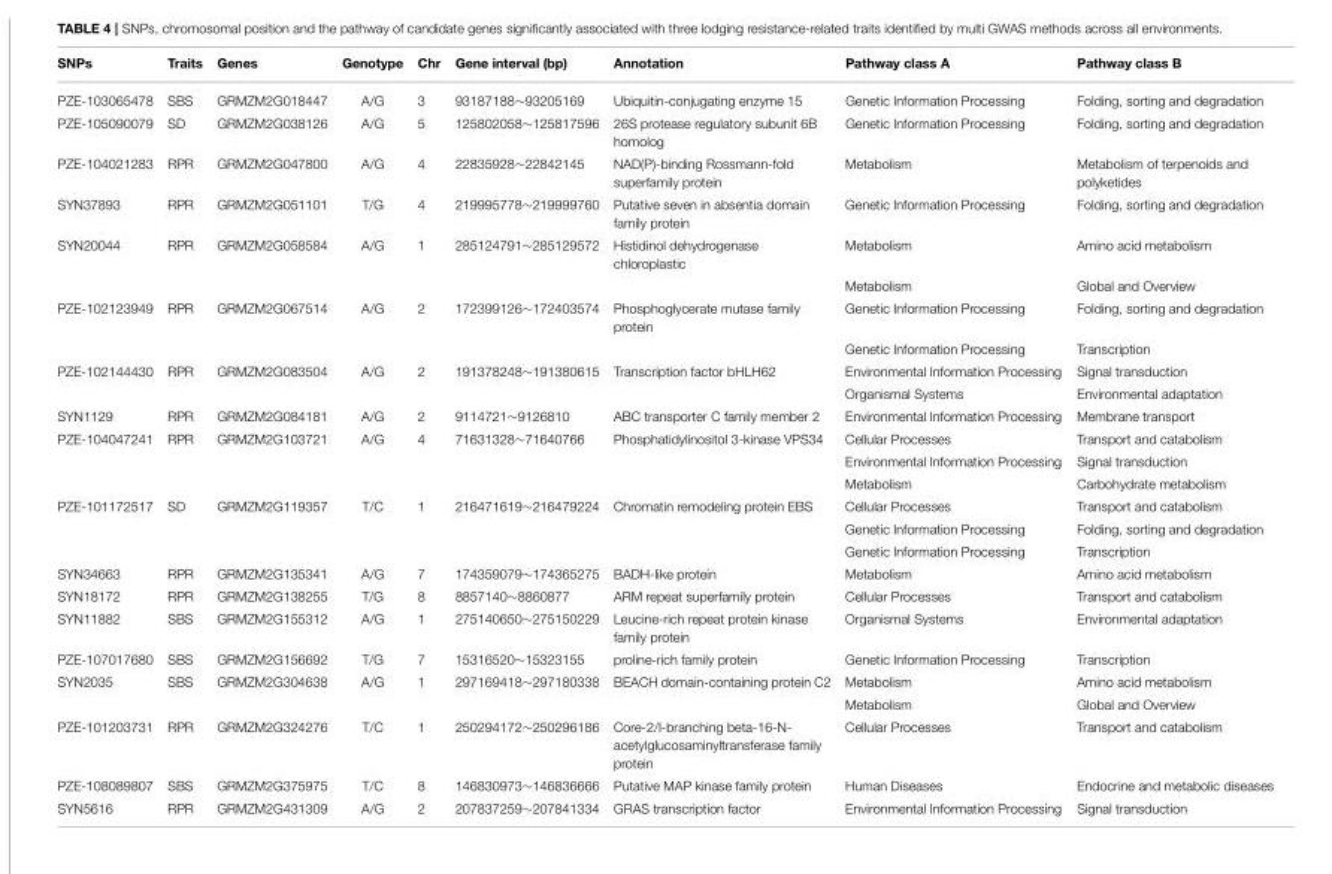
<table><thead><tr><td>SNPs</td><td>Traits</td><td>Genes</td><td>Genotype</td><td>Chr</td><td>Gene interval (bp)</td><td>Annotation</td><td>Pathway class A</td><td>Pathway class B</td></tr></thead><tbody><tr><td>PZE-103065478</td><td>SBS</td><td>GRMZM2G018447</td><td>A/G</td><td>3</td><td>93187188∼93205169</td><td>Ubiquitin-conjugating enzyme 15</td><td>Genetic Information Processing</td><td>Folding, sorting and degradation</td></tr><tr><td>PZE-105090079</td><td>SD</td><td>GRMZM2G038126</td><td>A/G</td><td>5</td><td>125802058∼125817596</td><td>26S protease regulatory subunit 6B homolog</td><td>Genetic Information Processing</td><td>Folding, sorting and degradation</td></tr><tr><td>PZE-104021283</td><td>RPR</td><td>GRMZM2G047800</td><td>A/G</td><td>4</td><td>22835928∼22842145</td><td>NAD(P)-binding Rossmann-fold superfamily protein</td><td>Metabolism</td><td>Metabolism of terpenoids and polyketides</td></tr><tr><td>SYN37893</td><td>RPR</td><td>GRMZM2G051101</td><td>T/G</td><td>4</td><td>219995778∼219999760</td><td>Putative seven in absentia domain family protein</td><td>Genetic Information Processing</td><td>Folding, sorting and degradation</td></tr><tr><td rowspan="2">SYN20044</td><td>RPR</td><td>GRMZM2G058584</td><td>A/G</td><td>1</td><td>285124791∼285129572</td><td>Histidinol dehydrogenase chloroplastic</td><td>Metabolism</td><td>Amino acid metabolism</td></tr><tr><td></td><td></td><td></td><td></td><td></td><td></td><td>Metabolism</td><td>Global and Overview</td></tr><tr><td rowspan="2">PZE-102123949</td><td>RPR</td><td>GRMZM2G067514</td><td>A/G</td><td>2</td><td>172399126∼172403574</td><td>Phosphoglycerate mutase family protein</td><td>Genetic Information Processing</td><td>Folding, sorting and degradation</td></tr><tr><td></td><td></td><td></td><td></td><td></td><td></td><td>Genetic Information Processing</td><td>Transcription</td></tr><tr><td rowspan="2">PZE-102144430</td><td>RPR</td><td>GRMZM2G083504</td><td>A/G</td><td>2</td><td>191378248∼191380615</td><td>Transcription factor bHLH62</td><td>Environmental Information Processing</td><td>Signal transduction</td></tr><tr><td></td><td></td><td></td><td></td><td></td><td></td><td>Organismal Systems</td><td>Environmental adaptation</td></tr><tr><td>SYN1129</td><td>RPR</td><td>GRMZM2G084181</td><td>A/G</td><td>2</td><td>9114721∼9126810</td><td>ABC transporter C family member 2</td><td>Environmental Information Processing</td><td>Membrane transport</td></tr><tr><td rowspan="3">PZE-104047241</td><td>RPR</td><td>GRMZM2G103721</td><td>A/G</td><td>4</td><td>71631328∼71640766</td><td>Phosphatidylinositol 3-kinase VPS34</td><td>Cellular Processes</td><td>Transport and catabolism</td></tr><tr><td></td><td></td><td></td><td></td><td></td><td></td><td>Environmental Information Processing</td><td>Signal transduction</td></tr><tr><td></td><td></td><td></td><td></td><td></td><td></td><td>Metabolism</td><td>Carbohydrate metabolism</td></tr><tr><td rowspan="3">PZE-101172517</td><td>SD</td><td>GRMZM2G119357</td><td>T/C</td><td>1</td><td>216471619∼216479224</td><td>Chromatin remodeling protein EBS</td><td>Cellular Processes</td><td>Transport and catabolism</td></tr><tr><td></td><td></td><td></td><td></td><td></td><td></td><td>Genetic Information Processing</td><td>Folding, sorting and degradation</td></tr><tr><td></td><td></td><td></td><td></td><td></td><td></td><td>Genetic Information Processing</td><td>Transcription</td></tr><tr><td>SYN34663</td><td>RPR</td><td>GRMZM2G135341</td><td>A/G</td><td>7</td><td>174359079∼174365275</td><td>BADH-like protein</td><td>Metabolism</td><td>Amino acid metabolism</td></tr><tr><td>SYN18172</td><td>RPR</td><td>GRMZM2G138255</td><td>T/G</td><td>8</td><td>8857140∼8860877</td><td>ARM repeat superfamily protein</td><td>Cellular Processes</td><td>Transport and catabolism</td></tr><tr><td>SYN11882</td><td>SBS</td><td>GRMZM2G155312</td><td>A/G</td><td>1</td><td>275140650∼275150229</td><td>Leucine-rich repeat protein kinase family protein</td><td>Organismal Systems</td><td>Environmental adaptation</td></tr><tr><td>PZE-107017680</td><td>SBS</td><td>GRMZM2G156692</td><td>T/G</td><td>7</td><td>15316520∼15323155</td><td>proline-rich family protein</td><td>Genetic Information Processing</td><td>Transcription</td></tr><tr><td rowspan="2">SYN2035</td><td>SBS</td><td>GRMZM2G304638</td><td>A/G</td><td>1</td><td>297169418∼297180338</td><td>BEACH domain-containing protein C2</td><td>Metabolism</td><td>Amino acid metabolism</td></tr><tr><td></td><td></td><td></td><td></td><td></td><td></td><td>Metabolism</td><td>Global and Overview</td></tr><tr><td>PZE-101203731</td><td>RPR</td><td>GRMZM2G324276</td><td>T/C</td><td>1</td><td>250294172∼250296186</td><td>Core-2/I-branching beta-16-N- acetylglucosaminyltransferase family protein</td><td>Cellular Processes</td><td>Transport and catabolism</td></tr><tr><td>PZE-108089807</td><td>SBS</td><td>GRMZM2G375975</td><td>T/C</td><td>8</td><td>146830973∼146836666</td><td>Putative MAP kinase family protein</td><td>Human Diseases</td><td>Endocrine and metabolic diseases</td></tr><tr><td>SYN5616</td><td>RPR</td><td>GRMZM2G431309</td><td>A/G</td><td>2</td><td>207837259∼207841334</td><td>GRAS transcription factor</td><td>Environmental Information Processing</td><td>Signal transduction</td></tr></tbody></table>